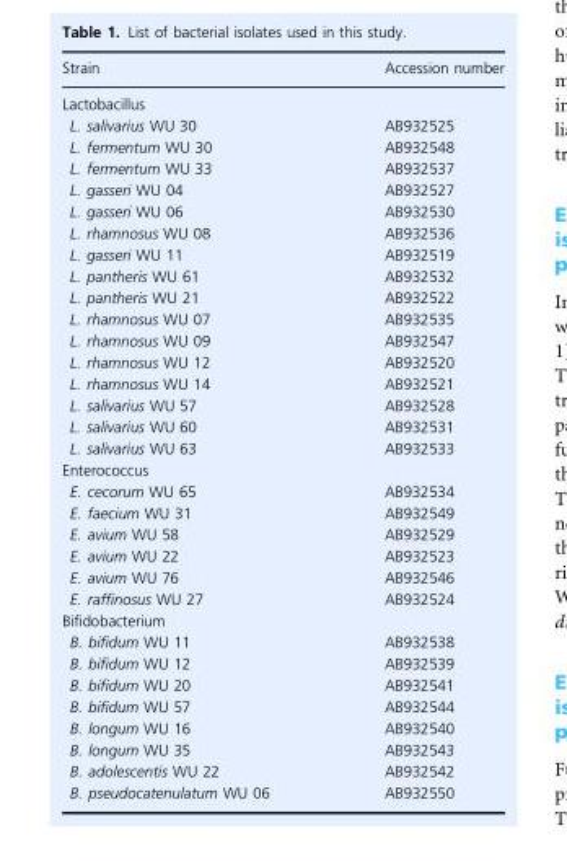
<table><thead><tr><td>Strain</td><td>Accession number</td></tr></thead><tbody><tr><td colspan="2">Lactobacillus</td></tr><tr><td>L. salivarius WU 30</td><td>AB932525</td></tr><tr><td>L. fermentum WU 30</td><td>AB932548</td></tr><tr><td>L. fermentum WU 33</td><td>AB932537</td></tr><tr><td>L. gasseri WU 04</td><td>AB932527</td></tr><tr><td>L. gasseri WU 06</td><td>AB932530</td></tr><tr><td>L. rhamnosus WU 08</td><td>AB932536</td></tr><tr><td>L. gasseri WU 11</td><td>AB932519</td></tr><tr><td>L. pantheris WU 61</td><td>AB932532</td></tr><tr><td>L. pantheris WU 21</td><td>AB932522</td></tr><tr><td>L. rhamnosus WU 07</td><td>AB932535</td></tr><tr><td>L. rhamnosus WU 09</td><td>AB932547</td></tr><tr><td>L. rhamnosus WU 12</td><td>AB932520</td></tr><tr><td>L. rhamnosus WU 14</td><td>AB932521</td></tr><tr><td>L. salivarius WU 57</td><td>AB932528</td></tr><tr><td>L. salivarius WU 60</td><td>AB932531</td></tr><tr><td>L. salivarius WU 63</td><td>AB932533</td></tr><tr><td colspan="2">Enterococcus</td></tr><tr><td>E. cecorum WU 65</td><td>AB932534</td></tr><tr><td>E. faecium WU 31</td><td>AB932549</td></tr><tr><td>E. avium WU 58</td><td>AB932529</td></tr><tr><td>E. avium WU 22</td><td>AB932523</td></tr><tr><td>E. avium WU 76</td><td>AB932546</td></tr><tr><td>E. raffinosus WU 27</td><td>AB932524</td></tr><tr><td colspan="2">Bifidobacterium</td></tr><tr><td>B. bifidum WU 11</td><td>AB932538</td></tr><tr><td>B. bifidum WU 12</td><td>AB932539</td></tr><tr><td>B. bifidum WU 20</td><td>AB932541</td></tr><tr><td>B. bifidum WU 57</td><td>AB932544</td></tr><tr><td>B. longum WU 16</td><td>AB932540</td></tr><tr><td>B. longum WU 35</td><td>AB932543</td></tr><tr><td>B. adolescentis WU 22</td><td>AB932542</td></tr><tr><td>B. pseudocatenulatum WU 06</td><td>AB932550</td></tr></tbody></table>